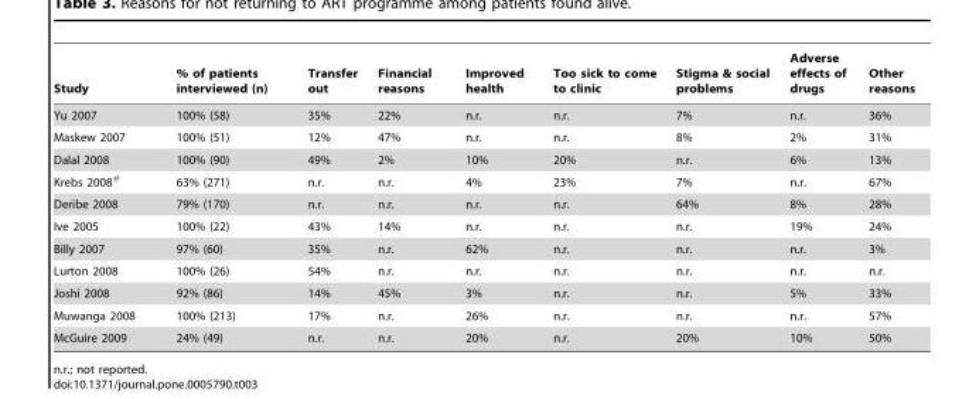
<table><thead><tr><td>Study</td><td>% of patients interviewed (n)</td><td>Transfer out</td><td>Financial reasons</td><td>Improved health</td><td>Too sick to come to clinic</td><td>Stigma &amp; social problems</td><td>Adverse effects of drugs</td><td>Other reasons</td></tr></thead><tbody><tr><td>Yu 2007</td><td>100% (58)</td><td>35%</td><td>22%</td><td>n.r.</td><td>n.r.</td><td>7%</td><td>n.r.</td><td>36%</td></tr><tr><td>Maskew 2007</td><td>100% (51)</td><td>12%</td><td>47%</td><td>n.r.</td><td>n.r.</td><td>8%</td><td>2%</td><td>31%</td></tr><tr><td>Dalal 2008</td><td>100% (90)</td><td>49%</td><td>2%</td><td>10%</td><td>20%</td><td>n.r.</td><td>6%</td><td>13%</td></tr><tr><td>Krebs 2008<sup>#</sup></td><td>63% (271)</td><td>n.r.</td><td>n.r.</td><td>4%</td><td>23%</td><td>7%</td><td>n.r.</td><td>67%</td></tr><tr><td>Deribe 2008</td><td>79% (170)</td><td>n.r.</td><td>n.r.</td><td>n.r.</td><td>n.r.</td><td>64%</td><td>8%</td><td>28%</td></tr><tr><td>Ive 2005</td><td>100% (22)</td><td>43%</td><td>14%</td><td>n.r.</td><td>n.r.</td><td>n.r.</td><td>19%</td><td>24%</td></tr><tr><td>Billy 2007</td><td>97% (60)</td><td>35%</td><td>n.r.</td><td>62%</td><td>n.r.</td><td>n.r.</td><td>n.r.</td><td>3%</td></tr><tr><td>Lurton 2008</td><td>100% (26)</td><td>54%</td><td>n.r.</td><td>n.r.</td><td>n.r.</td><td>n.r.</td><td>n.r.</td><td>n.r.</td></tr><tr><td>Joshi 2008</td><td>92% (86)</td><td>14%</td><td>45%</td><td>3%</td><td>n.r.</td><td>n.r.</td><td>5%</td><td>33%</td></tr><tr><td>Muwanga 2008</td><td>100% (213)</td><td>17%</td><td>n.r.</td><td>26%</td><td>n.r.</td><td>n.r.</td><td>n.r.</td><td>57%</td></tr><tr><td>McGuire 2009</td><td>24% (49)</td><td>n.r.</td><td>n.r.</td><td>20%</td><td>n.r.</td><td>20%</td><td>10%</td><td>50%</td></tr></tbody></table>